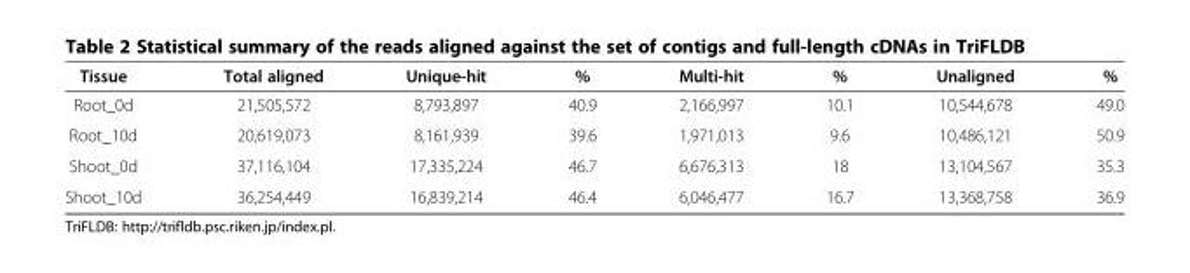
<table><thead><tr><td>Tissue</td><td>Total aligned</td><td>Unique-hit</td><td>%</td><td>Multi-hit</td><td>%</td><td>Unaligned</td><td>%</td></tr></thead><tbody><tr><td>Root_0d</td><td>21,505,572</td><td>8,793,897</td><td>40.9</td><td>2,166,997</td><td>10.1</td><td>10,544,678</td><td>49.0</td></tr><tr><td>Root_10d</td><td>20,619,073</td><td>8,161,939</td><td>39.6</td><td>1,971,013</td><td>9.6</td><td>10,486,121</td><td>50.9</td></tr><tr><td>Shoot_0d</td><td>37,116,104</td><td>17,335,224</td><td>46.7</td><td>6,676,313</td><td>18</td><td>13,104,567</td><td>35.3</td></tr><tr><td>Shoot_10d</td><td>36,254,449</td><td>16,839,214</td><td>46.4</td><td>6,046,477</td><td>16.7</td><td>13,368,758</td><td>36.9</td></tr></tbody></table>